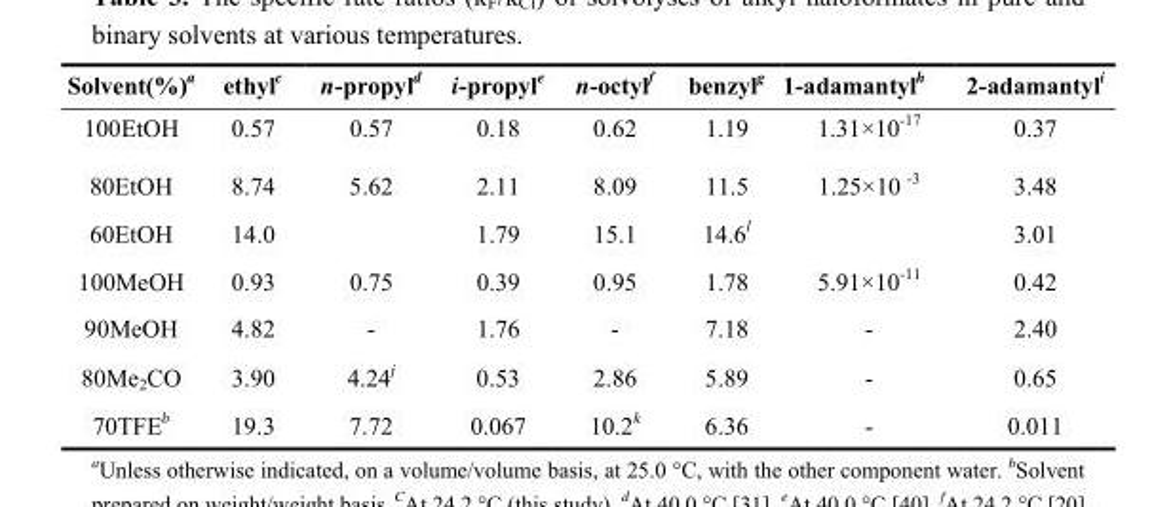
<table><thead><tr><td>Solvent(%)a</td><td>ethylc</td><td>n-propyld</td><td>i-propyle</td><td>n-octylf</td><td>benzylg</td><td>1-adamantylh</td><td>2-adamantyli</td></tr></thead><tbody><tr><td>100EtOH</td><td>0.57</td><td>0.57</td><td>0.18</td><td>0.62</td><td>1.19</td><td>1.31×10<sup>-17</sup></td><td>0.37</td></tr><tr><td>80EtOH</td><td>8.74</td><td>5.62</td><td>2.11</td><td>8.09</td><td>11.5</td><td>1.25×10 <sup>-3</sup></td><td>3.48</td></tr><tr><td>60EtOH</td><td>14.0</td><td></td><td>1.79</td><td>15.1</td><td>14.6l</td><td></td><td>3.01</td></tr><tr><td>100MeOH</td><td>0.93</td><td>0.75</td><td>0.39</td><td>0.95</td><td>1.78</td><td>5.91×10<sup>-11</sup></td><td>0.42</td></tr><tr><td>90MeOH</td><td>4.82</td><td>-</td><td>1.76</td><td>-</td><td>7.18</td><td>-</td><td>2.40</td></tr><tr><td>80Me<sub>2</sub>CO</td><td>3.90</td><td>4.24j</td><td>0.53</td><td>2.86</td><td>5.89</td><td>-</td><td>0.65</td></tr><tr><td>70TFEb</td><td>19.3</td><td>7.72</td><td>0.067</td><td>10.2k</td><td>6.36</td><td>-</td><td>0.011</td></tr></tbody></table>